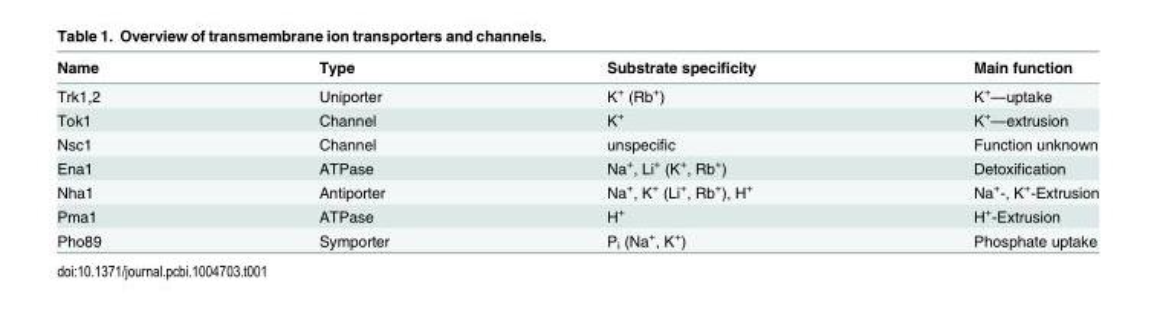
<table><thead><tr><td>Name</td><td>Type</td><td>Substrate specificity</td><td>Main function</td></tr></thead><tbody><tr><td>Trk1,2</td><td>Uniporter</td><td>K<sup>+</sup> (Rb<sup>+</sup>)</td><td>K<sup>+</sup>—uptake</td></tr><tr><td>Tok1</td><td>Channel</td><td>K<sup>+</sup></td><td>K<sup>+</sup>—extrusion</td></tr><tr><td>Nsc1</td><td>Channel</td><td>unspecific</td><td>Function unknown</td></tr><tr><td>Ena1</td><td>ATPase</td><td>Na<sup>+</sup>, Li<sup>+</sup> (K<sup>+</sup>, Rb<sup>+</sup>)</td><td>Detoxification</td></tr><tr><td>Nha1</td><td>Antiporter</td><td>Na<sup>+</sup>, K<sup>+</sup> (Li<sup>+</sup>, Rb<sup>+</sup>), H<sup>+</sup></td><td>Na<sup>+</sup>-, K<sup>+</sup>-Extrusion</td></tr><tr><td>Pma1</td><td>ATPase</td><td>H<sup>+</sup></td><td>H<sup>+</sup>-Extrusion</td></tr><tr><td>Pho89</td><td>Symporter</td><td>P<sub>i</sub> (Na<sup>+</sup>, K<sup>+</sup>)</td><td>Phosphate uptake</td></tr></tbody></table>